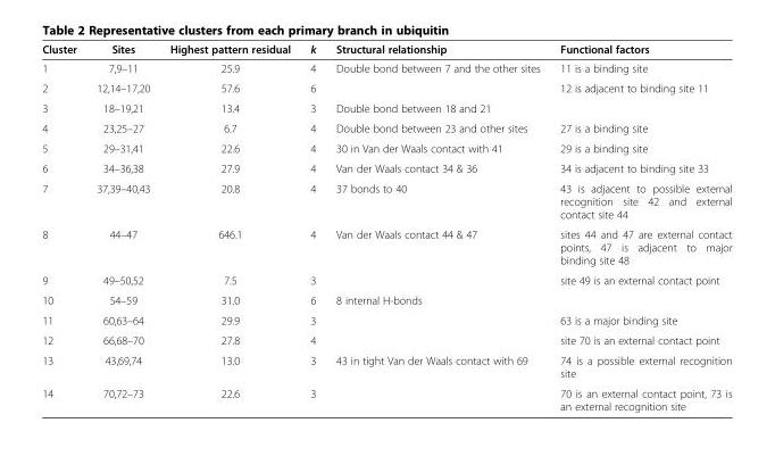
<table><thead><tr><td>Cluster</td><td>Sites</td><td>Highest pattern residual</td><td>k</td><td>Structural relationship</td><td>Functional factors</td></tr></thead><tbody><tr><td>1</td><td>7,9–11</td><td>25.9</td><td>4</td><td>Double bond between 7 and the other sites</td><td>11 is a binding site</td></tr><tr><td>2</td><td>12,14–17,20</td><td>57.6</td><td>6</td><td></td><td>12 is adjacent to binding site 11</td></tr><tr><td>3</td><td>18–19,21</td><td>13.4</td><td>3</td><td>Double bond between 18 and 21</td><td></td></tr><tr><td>4</td><td>23,25–27</td><td>6.7</td><td>4</td><td>Double bond between 23 and other sites</td><td>27 is a binding site</td></tr><tr><td>5</td><td>29–31,41</td><td>22.6</td><td>4</td><td>30 in Van der Waals contact with 41</td><td>29 is a binding site</td></tr><tr><td>6</td><td>34–36,38</td><td>27.9</td><td>4</td><td>Van der Waals contact 34 &amp; 36</td><td>34 is adjacent to binding site 33</td></tr><tr><td>7</td><td>37,39–40,43</td><td>20.8</td><td>4</td><td>37 bonds to 40</td><td>43 is adjacent to possible external recognition site 42 and external contact site 44</td></tr><tr><td>8</td><td>44–47</td><td>646.1</td><td>4</td><td>Van der Waals contact 44 &amp; 47</td><td>sites 44 and 47 are external contact points, 47 is adjacent to major binding site 48</td></tr><tr><td>9</td><td>49–50,52</td><td>7.5</td><td>3</td><td></td><td>site 49 is an external contact point</td></tr><tr><td>10</td><td>54–59</td><td>31.0</td><td>6</td><td>8 internal H-bonds</td><td></td></tr><tr><td>11</td><td>60,63–64</td><td>29.9</td><td>3</td><td></td><td>63 is a major binding site</td></tr><tr><td>12</td><td>66,68–70</td><td>27.8</td><td>4</td><td></td><td>site 70 is an external contact point</td></tr><tr><td>13</td><td>43,69,74</td><td>13.0</td><td>3</td><td>43 in tight Van der Waals contact with 69</td><td>74 is a possible external recognition site</td></tr><tr><td>14</td><td>70,72–73</td><td>22.6</td><td>3</td><td></td><td>70 is an external contact point, 73 is an external recognition site</td></tr></tbody></table>